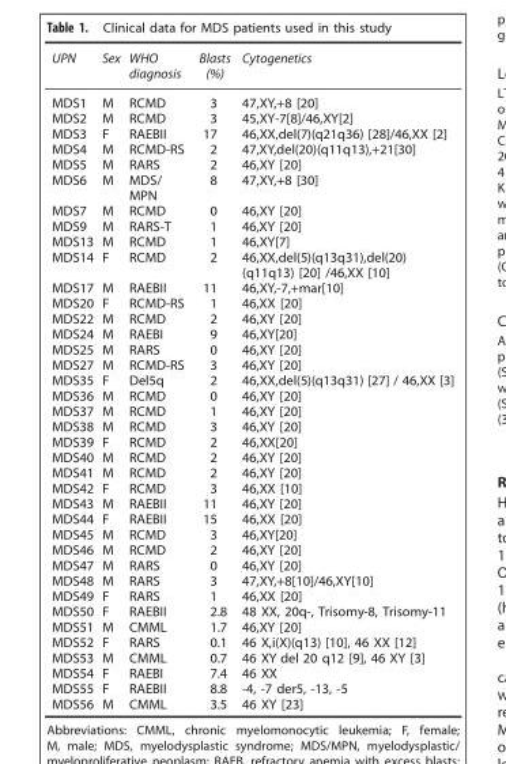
<table><thead><tr><td>UPN</td><td>Sex</td><td>WHO diagnosis</td><td>Blasts (%)</td><td>Cytogenetics</td></tr></thead><tbody><tr><td>MDS1</td><td>M</td><td>RCMD</td><td>3</td><td>47,XY,+8 [20]</td></tr><tr><td>MDS2</td><td>M</td><td>RCMD</td><td>3</td><td>45,XY-7[8]/46,XY[2]</td></tr><tr><td>MDS3</td><td>F</td><td>RAEBII</td><td>17</td><td>46,XX,del(7)(q21q36) [28]/46,XX [2]</td></tr><tr><td>MDS4</td><td>M</td><td>RCMD-RS</td><td>2</td><td>47,XY,del(20)(q11q13),+21[30]</td></tr><tr><td>MDS5</td><td>M</td><td>RARS</td><td>2</td><td>46,XY [20]</td></tr><tr><td>MDS6</td><td>M</td><td>MDS/ MPN</td><td>8</td><td>47,XY,+8 [30]</td></tr><tr><td>MDS7</td><td>M</td><td>RCMD</td><td>0</td><td>46,XY [20]</td></tr><tr><td>MDS9</td><td>M</td><td>RARS-T</td><td>1</td><td>46,XY [20]</td></tr><tr><td>MDS13</td><td>M</td><td>RCMD</td><td>1</td><td>46,XY[7]</td></tr><tr><td>MDS14</td><td>F</td><td>RCMD</td><td>2</td><td>46,XX,del(5)(q13q31),del(20) (q11q13) [20] /46,XX [10]</td></tr><tr><td>MDS17</td><td>M</td><td>RAEBII</td><td>11</td><td>46,XY,-7,+mar[10]</td></tr><tr><td>MDS20</td><td>F</td><td>RCMD-RS</td><td>1</td><td>46,XX [20]</td></tr><tr><td>MDS22</td><td>M</td><td>RCMD</td><td>2</td><td>46,XY [20]</td></tr><tr><td>MDS24</td><td>M</td><td>RAEBI</td><td>9</td><td>46,XY[20]</td></tr><tr><td>MDS25</td><td>M</td><td>RARS</td><td>0</td><td>46,XY [20]</td></tr><tr><td>MDS27</td><td>M</td><td>RCMD-RS</td><td>3</td><td>46,XY [20]</td></tr><tr><td>MDS35</td><td>F</td><td>Del5q</td><td>2</td><td>46,XX,del(5)(q13q31) [27] / 46,XX [3]</td></tr><tr><td>MDS36</td><td>M</td><td>RCMD</td><td>0</td><td>46,XY [20]</td></tr><tr><td>MDS37</td><td>M</td><td>RCMD</td><td>1</td><td>46,XY [20]</td></tr><tr><td>MDS38</td><td>M</td><td>RCMD</td><td>3</td><td>46,XY [20]</td></tr><tr><td>MDS39</td><td>F</td><td>RCMD</td><td>2</td><td>46,XX[20]</td></tr><tr><td>MDS40</td><td>M</td><td>RCMD</td><td>2</td><td>46,XY [20]</td></tr><tr><td>MDS41</td><td>M</td><td>RCMD</td><td>2</td><td>46,XY [20]</td></tr><tr><td>MDS42</td><td>F</td><td>RCMD</td><td>3</td><td>46,XX [10]</td></tr><tr><td>MDS43</td><td>M</td><td>RAEBII</td><td>11</td><td>46,XY [20]</td></tr><tr><td>MDS44</td><td>F</td><td>RAEBII</td><td>15</td><td>46,XX [20]</td></tr><tr><td>MDS45</td><td>M</td><td>RCMD</td><td>3</td><td>46,XY[20]</td></tr><tr><td>MDS46</td><td>M</td><td>RCMD</td><td>2</td><td>46,XY [20]</td></tr><tr><td>MDS47</td><td>M</td><td>RARS</td><td>0</td><td>46,XY [20]</td></tr><tr><td>MDS48</td><td>M</td><td>RARS</td><td>3</td><td>47,XY,+8[10]/46,XY[10]</td></tr><tr><td>MDS49</td><td>F</td><td>RARS</td><td>1</td><td>46,XX [20]</td></tr><tr><td>MDS50</td><td>F</td><td>RAEBII</td><td>2.8</td><td>48 XX, 20q-, Trisomy-8, Trisomy-11</td></tr><tr><td>MDS51</td><td>M</td><td>CMML</td><td>1.7</td><td>46,XY [20]</td></tr><tr><td>MDS52</td><td>F</td><td>RARS</td><td>0.1</td><td>46 X,i(X)(q13) [10], 46 XX [12]</td></tr><tr><td>MDS53</td><td>M</td><td>CMML</td><td>0.7</td><td>46 XY del 20 q12 [9], 46 XY [3]</td></tr><tr><td>MDS54</td><td>F</td><td>RAEBI</td><td>7.4</td><td>46 XX</td></tr><tr><td>MDS55</td><td>F</td><td>RAEBII</td><td>8.8</td><td>-4, -7 der5, -13, -5</td></tr><tr><td>MDS56</td><td>M</td><td>CMML</td><td>3.5</td><td>46 XY [23]</td></tr></tbody></table>